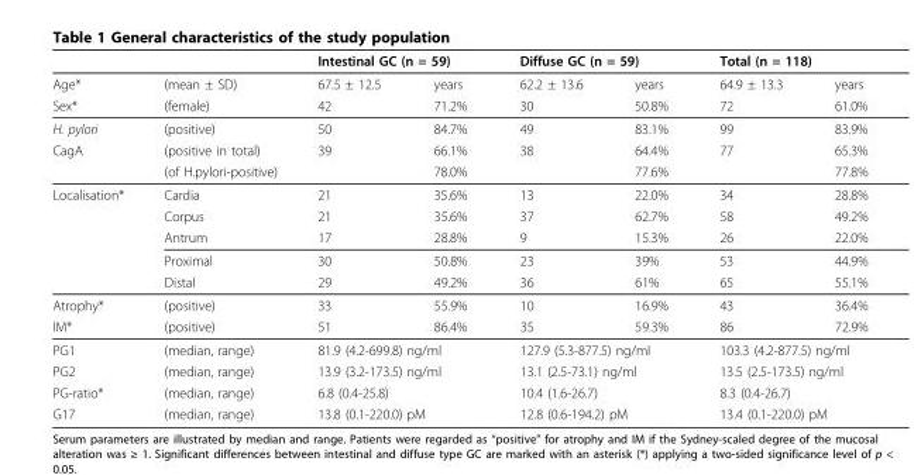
<table><thead><tr><td rowspan="2">Age*</td><td rowspan="2">(mean ± SD)</td><td colspan="2">Intestinal GC (n = 59)</td><td colspan="2">Diffuse GC (n = 59)</td><td colspan="2">Total (n = 118)</td></tr><tr><td>67.5 ± 12.5</td><td>years</td><td>62.2 ± 13.6</td><td>years</td><td>64.9 ± 13.3</td><td>years</td></tr></thead><tbody><tr><td>Sex*</td><td>(female)</td><td>42</td><td>71.2%</td><td>30</td><td>50.8%</td><td>72</td><td>61.0%</td></tr><tr><td>H. pylori</td><td>(positive)</td><td>50</td><td>84.7%</td><td>49</td><td>83.1%</td><td>99</td><td>83.9%</td></tr><tr><td rowspan="2">CagA</td><td>(positive in total)</td><td>39</td><td>66.1%</td><td>38</td><td>64.4%</td><td>77</td><td>65.3%</td></tr><tr><td>(of H.pylori-positive)</td><td></td><td>78.0%</td><td></td><td>77.6%</td><td></td><td>77.8%</td></tr><tr><td rowspan="5">Localisation*</td><td>Cardia</td><td>21</td><td>35.6%</td><td>13</td><td>22.0%</td><td>34</td><td>28.8%</td></tr><tr><td>Corpus</td><td>21</td><td>35.6%</td><td>37</td><td>62.7%</td><td>58</td><td>49.2%</td></tr><tr><td>Antrum</td><td>17</td><td>28.8%</td><td>9</td><td>15.3%</td><td>26</td><td>22.0%</td></tr><tr><td>Proximal</td><td>30</td><td>50.8%</td><td>23</td><td>39%</td><td>53</td><td>44.9%</td></tr><tr><td>Distal</td><td>29</td><td>49.2%</td><td>36</td><td>61%</td><td>65</td><td>55.1%</td></tr><tr><td>Atrophy*</td><td>(positive)</td><td>33</td><td>55.9%</td><td>10</td><td>16.9%</td><td>43</td><td>36.4%</td></tr><tr><td>IM*</td><td>(positive)</td><td>51</td><td>86.4%</td><td>35</td><td>59.3%</td><td>86</td><td>72.9%</td></tr><tr><td>PG1</td><td>(median, range)</td><td colspan="2">81.9 (4.2-699.8) ng/ml</td><td colspan="2">127.9 (5.3-877.5) ng/ml</td><td colspan="2">103.3 (4.2-877.5) ng/ml</td></tr><tr><td>PG2</td><td>(median, range)</td><td colspan="2">13.9 (3.2-173.5) ng/ml</td><td colspan="2">13.1 (2.5-73.1) ng/ml</td><td colspan="2">13.5 (2.5-173.5) ng/ml</td></tr><tr><td>PG-ratio*</td><td>(median, range)</td><td colspan="2">6.8 (0.4-25.8)</td><td colspan="2">10.4 (1.6-26.7)</td><td colspan="2">8.3 (0.4-26.7)</td></tr><tr><td>G17</td><td>(median, range)</td><td colspan="2">13.8 (0.1-220.0) pM</td><td colspan="2">12.8 (0.6-194.2) pM</td><td colspan="2">13.4 (0.1-220.0) pM</td></tr></tbody></table>